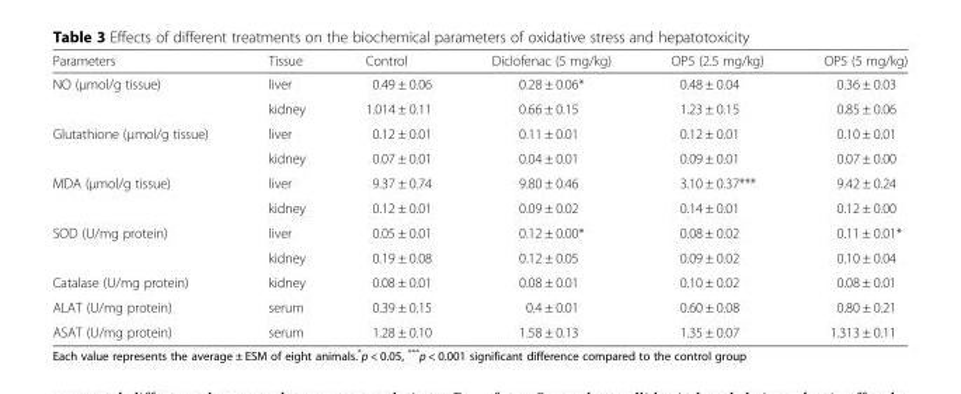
<table><thead><tr><td>Parameters</td><td>Tissue</td><td>Control</td><td>Diclofenac (5 mg/kg)</td><td>OP5 (2.5 mg/kg)</td><td>OP5 (5 mg/kg)</td></tr></thead><tbody><tr><td rowspan="2">NO (μmol/g tissue)</td><td>liver</td><td>0.49 ± 0.06</td><td>0.28 ± 0.06*</td><td>0.48 ± 0.04</td><td>0.36 ± 0.03</td></tr><tr><td>kidney</td><td>1.014 ± 0.11</td><td>0.66 ± 0.15</td><td>1.23 ± 0.15</td><td>0.85 ± 0.06</td></tr><tr><td rowspan="2">Glutathione (μmol/g tissue)</td><td>liver</td><td>0.12 ± 0.01</td><td>0.11 ± 0.01</td><td>0.12 ± 0.01</td><td>0.10 ± 0.01</td></tr><tr><td>kidney</td><td>0.07 ± 0.01</td><td>0.04 ± 0.01</td><td>0.09 ± 0.01</td><td>0.07 ± 0.00</td></tr><tr><td rowspan="2">MDA (μmol/g tissue)</td><td>liver</td><td>9.37 ± 0.74</td><td>9.80 ± 0.46</td><td>3.10 ± 0.37***</td><td>9.42 ± 0.24</td></tr><tr><td>kidney</td><td>0.12 ± 0.01</td><td>0.09 ± 0.02</td><td>0.14 ± 0.01</td><td>0.12 ± 0.00</td></tr><tr><td rowspan="2">SOD (U/mg protein)</td><td>liver</td><td>0.05 ± 0.01</td><td>0.12 ± 0.00*</td><td>0.08 ± 0.02</td><td>0.11 ± 0.01*</td></tr><tr><td>kidney</td><td>0.19 ± 0.08</td><td>0.12 ± 0.05</td><td>0.09 ± 0.02</td><td>0.10 ± 0.04</td></tr><tr><td>Catalase (U/mg protein)</td><td>kidney</td><td>0.08 ± 0.01</td><td>0.08 ± 0.01</td><td>0.10 ± 0.02</td><td>0.08 ± 0.01</td></tr><tr><td>ALAT (U/mg protein)</td><td>serum</td><td>0.39 ± 0.15</td><td>0.4 ± 0.01</td><td>0.60 ± 0.08</td><td>0.80 ± 0.21</td></tr><tr><td>ASAT (U/mg protein)</td><td>serum</td><td>1.28 ± 0.10</td><td>1.58 ± 0.13</td><td>1.35 ± 0.07</td><td>1.313 ± 0.11</td></tr></tbody></table>